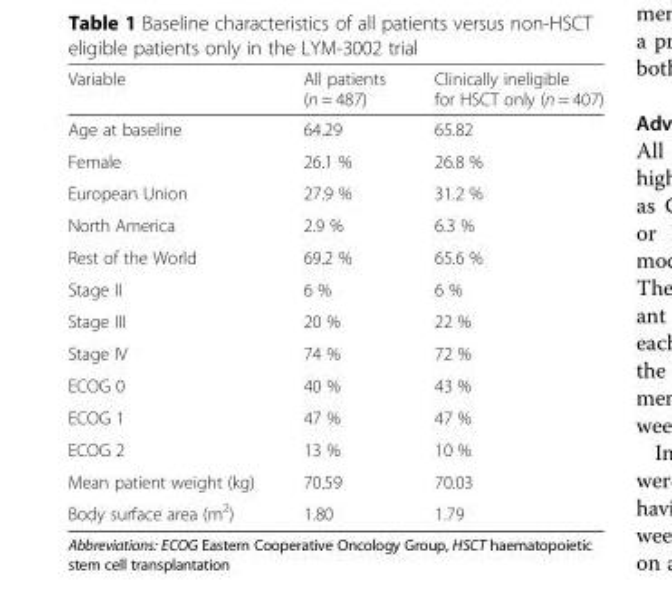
<table><thead><tr><td>Variable</td><td>All patients (n = 487)</td><td>Clinically ineligible for HSCT only (n = 407)</td></tr></thead><tbody><tr><td>Age at baseline</td><td>64.29</td><td>65.82</td></tr><tr><td>Female</td><td>26.1 %</td><td>26.8 %</td></tr><tr><td>European Union</td><td>27.9 %</td><td>31.2 %</td></tr><tr><td>North America</td><td>2.9 %</td><td>6.3 %</td></tr><tr><td>Rest of the World</td><td>69.2 %</td><td>65.6 %</td></tr><tr><td>Stage II</td><td>6 %</td><td>6 %</td></tr><tr><td>Stage III</td><td>20 %</td><td>22 %</td></tr><tr><td>Stage IV</td><td>74 %</td><td>72 %</td></tr><tr><td>ECOG 0</td><td>40 %</td><td>43 %</td></tr><tr><td>ECOG 1</td><td>47 %</td><td>47 %</td></tr><tr><td>ECOG 2</td><td>13 %</td><td>10 %</td></tr><tr><td>Mean patient weight (kg)</td><td>70.59</td><td>70.03</td></tr><tr><td>Body surface area (m<sup>2</sup>)</td><td>1.80</td><td>1.79</td></tr></tbody></table>